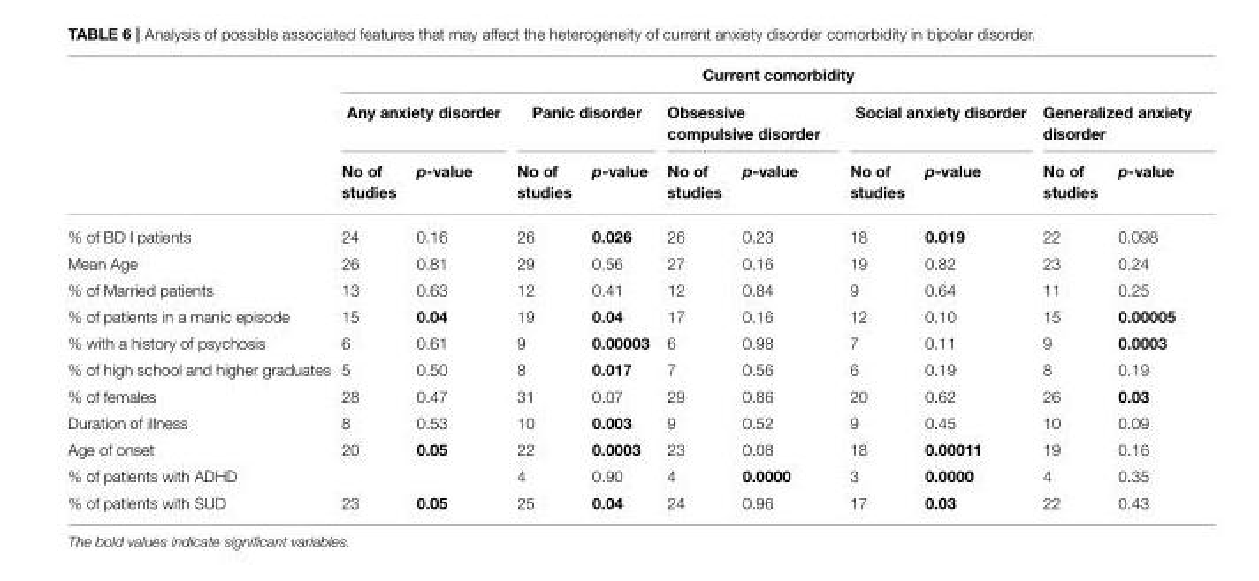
<table><thead><tr><td rowspan="3"></td><td colspan="10">Current comorbidity</td></tr><tr><td colspan="2">Any anxiety disorder</td><td colspan="2">Panic disorder</td><td colspan="2">Obsessive compulsive disorder</td><td colspan="2">Social anxiety disorder</td><td colspan="2">Generalized anxiety disorder</td></tr><tr><td>No of studies</td><td>p-value</td><td>No of studies</td><td>p-value</td><td>No of studies</td><td>p-value</td><td>No of studies</td><td>p-value</td><td>No of studies</td><td>p-value</td></tr></thead><tbody><tr><td>% of BD I patients</td><td>24</td><td>0.16</td><td>26</td><td>0.026</td><td>26</td><td>0.23</td><td>18</td><td>0.019</td><td>22</td><td>0.098</td></tr><tr><td>Mean Age</td><td>26</td><td>0.81</td><td>29</td><td>0.56</td><td>27</td><td>0.16</td><td>19</td><td>0.82</td><td>23</td><td>0.24</td></tr><tr><td>% of Married patients</td><td>13</td><td>0.63</td><td>12</td><td>0.41</td><td>12</td><td>0.84</td><td>9</td><td>0.64</td><td>11</td><td>0.25</td></tr><tr><td>% of patients in a manic episode</td><td>15</td><td>0.04</td><td>19</td><td>0.04</td><td>17</td><td>0.16</td><td>12</td><td>0.10</td><td>15</td><td>0.00005</td></tr><tr><td>% with a history of psychosis</td><td>6</td><td>0.61</td><td>9</td><td>0.00003</td><td>6</td><td>0.98</td><td>7</td><td>0.11</td><td>9</td><td>0.0003</td></tr><tr><td>% of high school and higher graduates</td><td>5</td><td>0.50</td><td>8</td><td>0.017</td><td>7</td><td>0.56</td><td>6</td><td>0.19</td><td>8</td><td>0.19</td></tr><tr><td>% of females</td><td>28</td><td>0.47</td><td>31</td><td>0.07</td><td>29</td><td>0.86</td><td>20</td><td>0.62</td><td>26</td><td>0.03</td></tr><tr><td>Duration of illness</td><td>8</td><td>0.53</td><td>10</td><td>0.003</td><td>9</td><td>0.52</td><td>9</td><td>0.45</td><td>10</td><td>0.09</td></tr><tr><td>Age of onset</td><td>20</td><td>0.05</td><td>22</td><td>0.0003</td><td>23</td><td>0.08</td><td>18</td><td>0.00011</td><td>19</td><td>0.16</td></tr><tr><td>% of patients with ADHD</td><td></td><td></td><td>4</td><td>0.90</td><td>4</td><td>0.0000</td><td>3</td><td>0.0000</td><td>4</td><td>0.35</td></tr><tr><td>% of patients with SUD</td><td>23</td><td>0.05</td><td>25</td><td>0.04</td><td>24</td><td>0.96</td><td>17</td><td>0.03</td><td>22</td><td>0.43</td></tr></tbody></table>